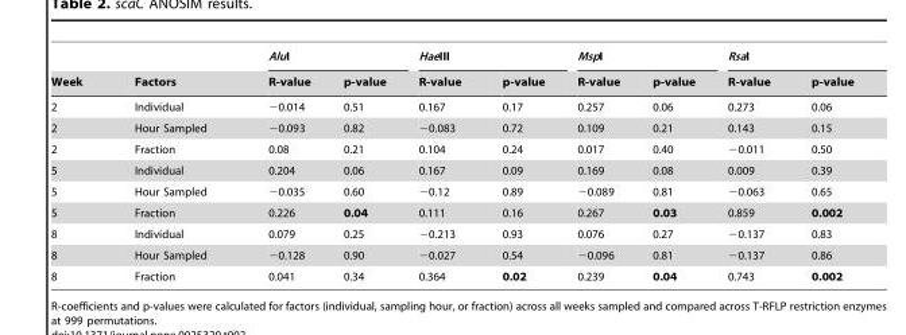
<table><thead><tr><td rowspan="2">Week</td><td rowspan="2">Factors</td><td colspan="2">AluI</td><td colspan="2">HaeIII</td><td colspan="2">MspI</td><td colspan="2">RsaI</td></tr><tr><td>R-value</td><td>p-value</td><td>R-value</td><td>p-value</td><td>R-value</td><td>p-value</td><td>R-value</td><td>p-value</td></tr></thead><tbody><tr><td>2</td><td>Individual</td><td>−0.014</td><td>0.51</td><td>0.167</td><td>0.17</td><td>0.257</td><td>0.06</td><td>0.273</td><td>0.06</td></tr><tr><td>2</td><td>Hour Sampled</td><td>−0.093</td><td>0.82</td><td>−0.083</td><td>0.72</td><td>0.109</td><td>0.21</td><td>0.143</td><td>0.15</td></tr><tr><td>2</td><td>Fraction</td><td>0.08</td><td>0.21</td><td>0.104</td><td>0.24</td><td>0.017</td><td>0.40</td><td>−0.011</td><td>0.50</td></tr><tr><td>5</td><td>Individual</td><td>0.204</td><td>0.06</td><td>0.167</td><td>0.09</td><td>0.169</td><td>0.08</td><td>0.009</td><td>0.39</td></tr><tr><td>5</td><td>Hour Sampled</td><td>−0.035</td><td>0.60</td><td>−0.12</td><td>0.89</td><td>−0.089</td><td>0.81</td><td>−0.063</td><td>0.65</td></tr><tr><td>5</td><td>Fraction</td><td>0.226</td><td>0.04</td><td>0.111</td><td>0.16</td><td>0.267</td><td>0.03</td><td>0.859</td><td>0.002</td></tr><tr><td>8</td><td>Individual</td><td>0.079</td><td>0.25</td><td>−0.213</td><td>0.93</td><td>0.076</td><td>0.27</td><td>−0.137</td><td>0.83</td></tr><tr><td>8</td><td>Hour Sampled</td><td>−0.128</td><td>0.90</td><td>−0.027</td><td>0.54</td><td>−0.096</td><td>0.81</td><td>−0.137</td><td>0.86</td></tr><tr><td>8</td><td>Fraction</td><td>0.041</td><td>0.34</td><td>0.364</td><td>0.02</td><td>0.239</td><td>0.04</td><td>0.743</td><td>0.002</td></tr></tbody></table>